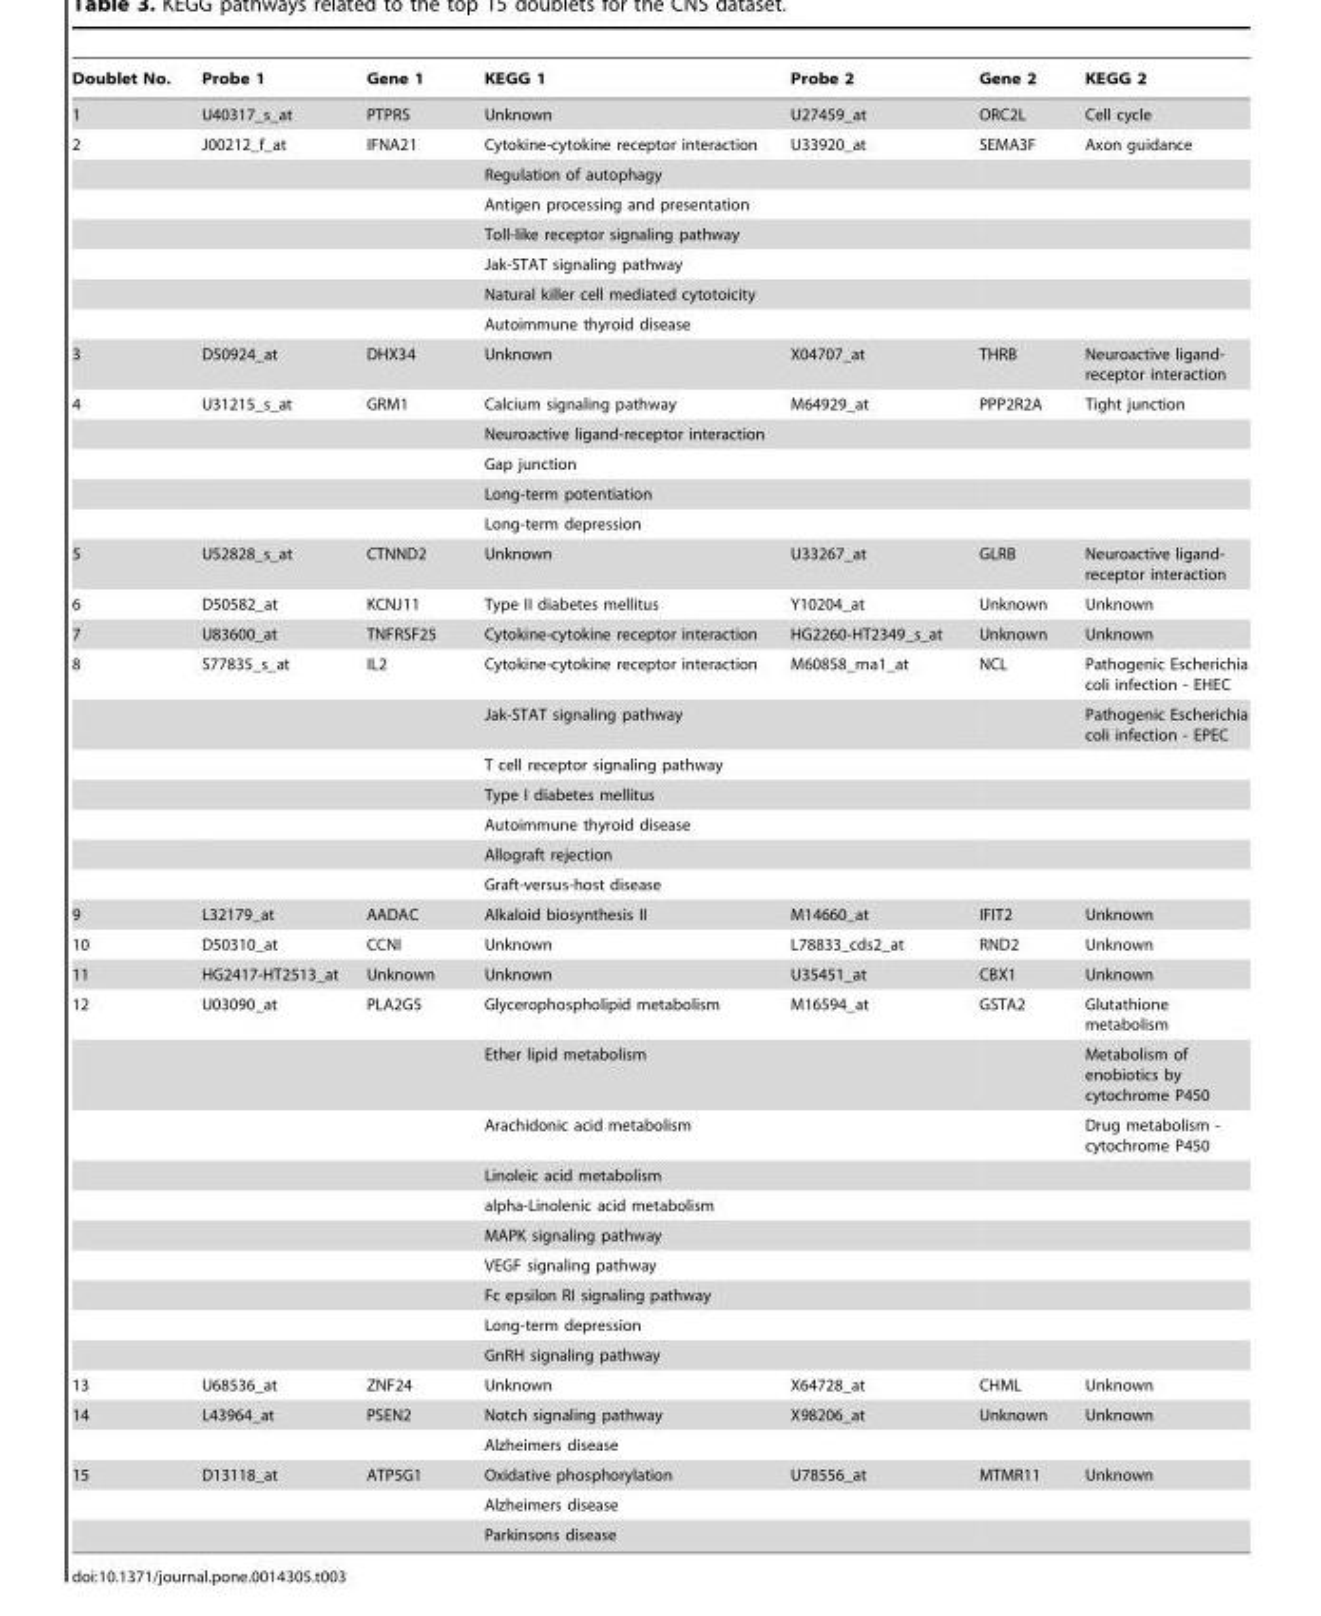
<table><thead><tr><td>Doublet No.</td><td>Probe 1</td><td>Gene 1</td><td>KEGG 1</td><td>Probe 2</td><td>Gene 2</td><td>KEGG 2</td></tr></thead><tbody><tr><td>1</td><td>U40317_s_at</td><td>PTPRS</td><td>Unknown</td><td>U27459_at</td><td>ORC2L</td><td>Cell cycle</td></tr><tr><td rowspan="7">2</td><td>J00212_f_at</td><td>IFNA21</td><td>Cytokine-cytokine receptor interaction</td><td>U33920_at</td><td>SEMA3F</td><td>Axon guidance</td></tr><tr><td></td><td></td><td>Regulation of autophagy</td><td></td><td></td><td></td></tr><tr><td></td><td></td><td>Antigen processing and presentation</td><td></td><td></td><td></td></tr><tr><td></td><td></td><td>Toll-like receptor signaling pathway</td><td></td><td></td><td></td></tr><tr><td></td><td></td><td>Jak-STAT signaling pathway</td><td></td><td></td><td></td></tr><tr><td></td><td></td><td>Natural killer cell mediated cytotoicity</td><td></td><td></td><td></td></tr><tr><td></td><td></td><td>Autoimmune thyroid disease</td><td></td><td></td><td></td></tr><tr><td>3</td><td>D50924_at</td><td>DHX34</td><td>Unknown</td><td>X04707_at</td><td>THRB</td><td>Neuroactive ligand- receptor interaction</td></tr><tr><td rowspan="5">4</td><td>U31215_s_at</td><td>GRM1</td><td>Calcium signaling pathway</td><td>M64929_at</td><td>PPP2R2A</td><td>Tight junction</td></tr><tr><td></td><td></td><td>Neuroactive ligand-receptor interaction</td><td></td><td></td><td></td></tr><tr><td></td><td></td><td>Gap junction</td><td></td><td></td><td></td></tr><tr><td></td><td></td><td>Long-term potentiation</td><td></td><td></td><td></td></tr><tr><td></td><td></td><td>Long-term depression</td><td></td><td></td><td></td></tr><tr><td>5</td><td>U52828_s_at</td><td>CTNND2</td><td>Unknown</td><td>U33267_at</td><td>GLRB</td><td>Neuroactive ligand- receptor interaction</td></tr><tr><td>6</td><td>D50582_at</td><td>KCNJ11</td><td>Type II diabetes mellitus</td><td>Y10204_at</td><td>Unknown</td><td>Unknown</td></tr><tr><td>7</td><td>U83600_at</td><td>TNFRSF25</td><td>Cytokine-cytokine receptor interaction</td><td>HG2260-HT2349_s_at</td><td>Unknown</td><td>Unknown</td></tr><tr><td rowspan="7">8</td><td>S77835_s_at</td><td>IL2</td><td>Cytokine-cytokine receptor interaction</td><td>M60858_rna1_at</td><td>NCL</td><td>Pathogenic Escherichia coli infection - EHEC</td></tr><tr><td></td><td></td><td>Jak-STAT signaling pathway</td><td></td><td></td><td>Pathogenic Escherichia coli infection - EPEC</td></tr><tr><td></td><td></td><td>T cell receptor signaling pathway</td><td></td><td></td><td></td></tr><tr><td></td><td></td><td>Type I diabetes mellitus</td><td></td><td></td><td></td></tr><tr><td></td><td></td><td>Autoimmune thyroid disease</td><td></td><td></td><td></td></tr><tr><td></td><td></td><td>Allograft rejection</td><td></td><td></td><td></td></tr><tr><td></td><td></td><td>Graft-versus-host disease</td><td></td><td></td><td></td></tr><tr><td>9</td><td>L32179_at</td><td>AADAC</td><td>Alkaloid biosynthesis II</td><td>M14660_at</td><td>IFIT2</td><td>Unknown</td></tr><tr><td>10</td><td>D50310_at</td><td>CCNI</td><td>Unknown</td><td>L78833_cds2_at</td><td>RND2</td><td>Unknown</td></tr><tr><td>11</td><td>HG2417-HT2513_at</td><td>Unknown</td><td>Unknown</td><td>U35451_at</td><td>CBX1</td><td>Unknown</td></tr><tr><td rowspan="10">12</td><td>U03090_at</td><td>PLA2G5</td><td>Glycerophospholipid metabolism</td><td>M16594_at</td><td>GSTA2</td><td>Glutathione metabolism</td></tr><tr><td></td><td></td><td>Ether lipid metabolism</td><td></td><td></td><td>Metabolism of enobiotics by cytochrome P450</td></tr><tr><td></td><td></td><td>Arachidonic acid metabolism</td><td></td><td></td><td>Drug metabolism - cytochrome P450</td></tr><tr><td></td><td></td><td>Linoleic acid metabolism</td><td></td><td></td><td></td></tr><tr><td></td><td></td><td>alpha-Linolenic acid metabolism</td><td></td><td></td><td></td></tr><tr><td></td><td></td><td>MAPK signaling pathway</td><td></td><td></td><td></td></tr><tr><td></td><td></td><td>VEGF signaling pathway</td><td></td><td></td><td></td></tr><tr><td></td><td></td><td>Fc epsilon RI signaling pathway</td><td></td><td></td><td></td></tr><tr><td></td><td></td><td>Long-term depression</td><td></td><td></td><td></td></tr><tr><td></td><td></td><td>GnRH signaling pathway</td><td></td><td></td><td></td></tr><tr><td>13</td><td>U68536_at</td><td>ZNF24</td><td>Unknown</td><td>X64728_at</td><td>CHML</td><td>Unknown</td></tr><tr><td rowspan="2">14</td><td>L43964_at</td><td>PSEN2</td><td>Notch signaling pathway</td><td>X98206_at</td><td>Unknown</td><td>Unknown</td></tr><tr><td></td><td></td><td>Alzheimers disease</td><td></td><td></td><td></td></tr><tr><td rowspan="3">15</td><td>D13118_at</td><td>ATP5G1</td><td>Oxidative phosphorylation</td><td>U78556_at</td><td>MTMR11</td><td>Unknown</td></tr><tr><td></td><td></td><td>Alzheimers disease</td><td></td><td></td><td></td></tr><tr><td></td><td></td><td>Parkinsons disease</td><td></td><td></td><td></td></tr></tbody></table>